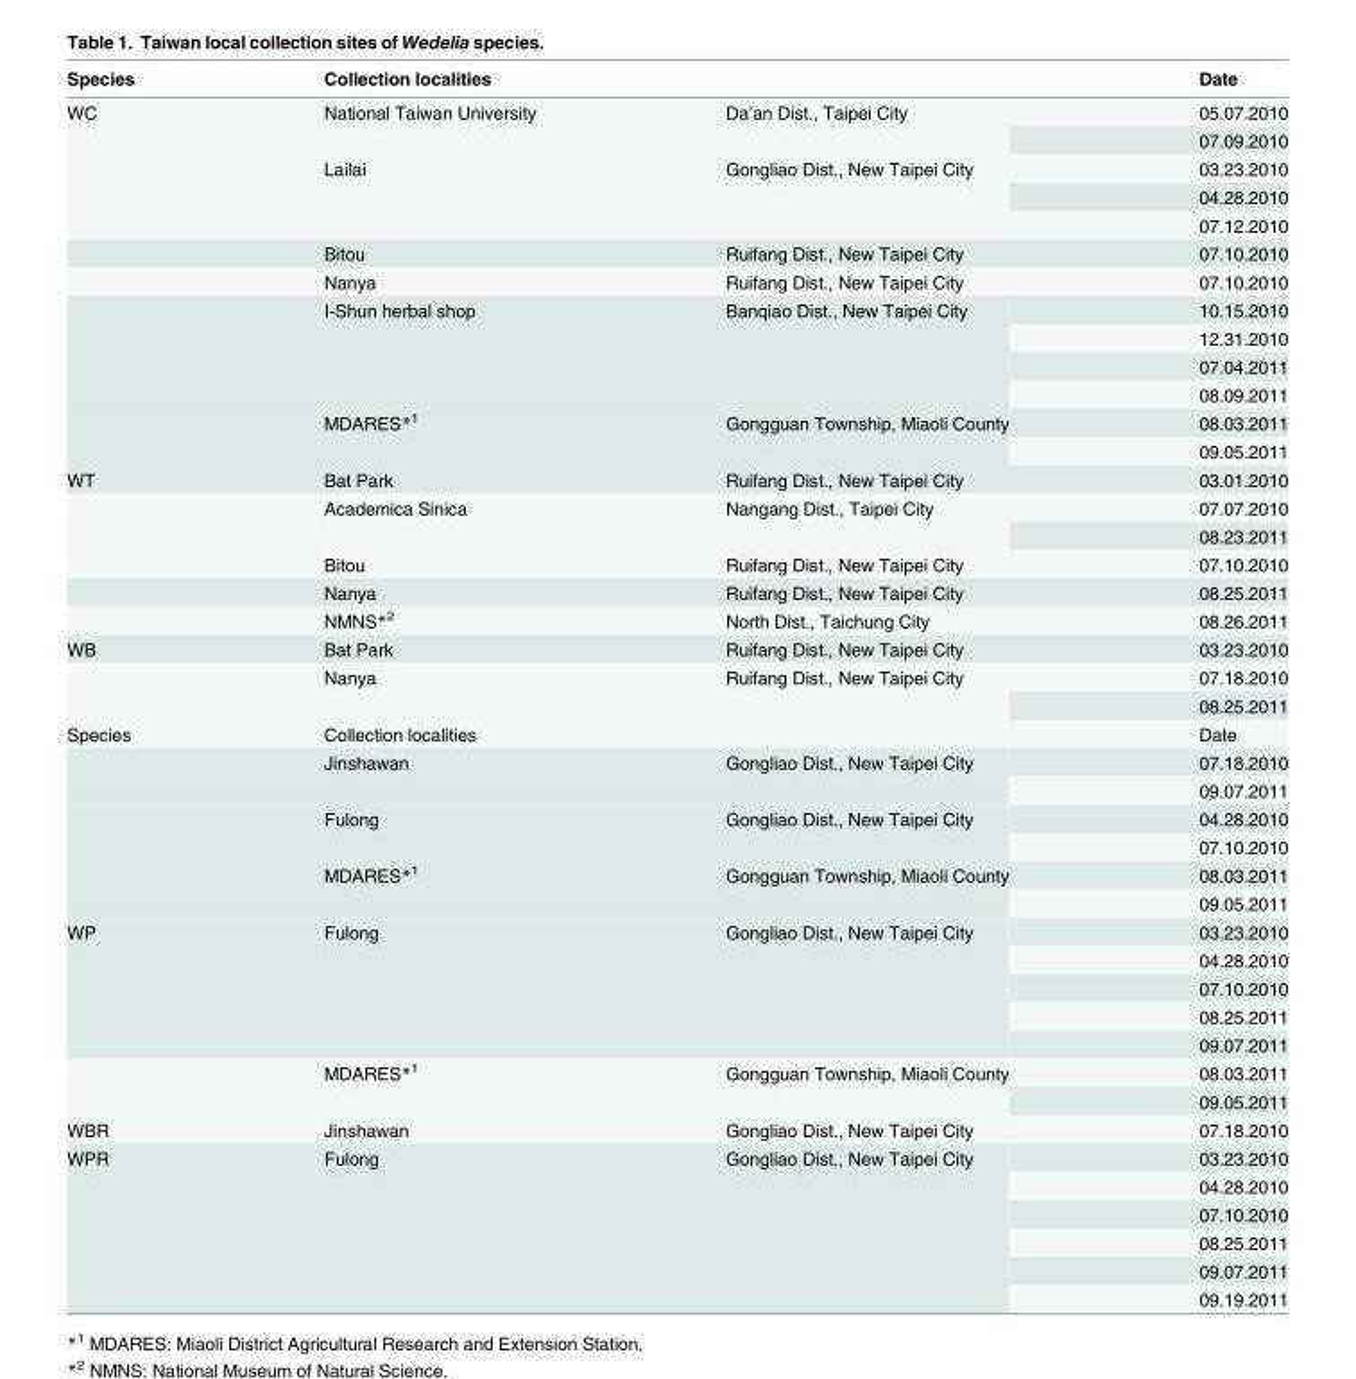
<table><thead><tr><td>Species</td><td>Collection localities</td><td></td><td>Date</td></tr></thead><tbody><tr><td rowspan="13">WC</td><td rowspan="2">National Taiwan University</td><td rowspan="2">Da’an Dist., Taipei City</td><td>05.07.2010</td></tr><tr><td>07.09.2010</td></tr><tr><td rowspan="3">Lailai</td><td rowspan="3">Gongliao Dist., New Taipei City</td><td>03.23.2010</td></tr><tr><td>04.28.2010</td></tr><tr><td>07.12.2010</td></tr><tr><td>Bitou</td><td>Ruifang Dist., New Taipei City</td><td>07.10.2010</td></tr><tr><td>Nanya</td><td>Ruifang Dist., New Taipei City</td><td>07.10.2010</td></tr><tr><td rowspan="4">I-Shun herbal shop</td><td rowspan="4">Banqiao Dist., New Taipei City</td><td>10.15.2010</td></tr><tr><td>12.31.2010</td></tr><tr><td>07.04.2011</td></tr><tr><td>08.09.2011</td></tr><tr><td rowspan="2">MDARES*<sup>1</sup></td><td rowspan="2">Gongguan Township, Miaoli County</td><td>08.03.2011</td></tr><tr><td>09.05.2011</td></tr><tr><td rowspan="6">WT</td><td>Bat Park</td><td>Ruifang Dist., New Taipei City</td><td>03.01.2010</td></tr><tr><td rowspan="2">Academica Sinica</td><td rowspan="2">Nangang Dist., Taipei City</td><td>07.07.2010</td></tr><tr><td>08.23.2011</td></tr><tr><td>Bitou</td><td>Ruifang Dist., New Taipei City</td><td>07.10.2010</td></tr><tr><td>Nanya</td><td>Ruifang Dist., New Taipei City</td><td>08.25.2011</td></tr><tr><td>NMNS*<sup>2</sup></td><td>North Dist., Taichung City</td><td>08.26.2011</td></tr><tr><td rowspan="3">WB</td><td>Bat Park</td><td>Ruifang Dist., New Taipei City</td><td>03.23.2010</td></tr><tr><td rowspan="2">Nanya</td><td rowspan="2">Ruifang Dist., New Taipei City</td><td>07.18.2010</td></tr><tr><td>08.25.2011</td></tr><tr><td rowspan="7">Species</td><td>Collection localities</td><td></td><td>Date</td></tr><tr><td rowspan="2">Jinshawan</td><td rowspan="2">Gongliao Dist., New Taipei City</td><td>07.18.2010</td></tr><tr><td>09.07.2011</td></tr><tr><td rowspan="2">Fulong</td><td rowspan="2">Gongliao Dist., New Taipei City</td><td>04.28.2010</td></tr><tr><td>07.10.2010</td></tr><tr><td rowspan="2">MDARES*<sup>1</sup></td><td rowspan="2">Gongguan Township, Miaoli County</td><td>08.03.2011</td></tr><tr><td>09.05.2011</td></tr><tr><td rowspan="7">WP</td><td rowspan="5">Fulong</td><td rowspan="5">Gongliao Dist., New Taipei City</td><td>03.23.2010</td></tr><tr><td>04.28.2010</td></tr><tr><td>07.10.2010</td></tr><tr><td>08.25.2011</td></tr><tr><td>09.07.2011</td></tr><tr><td rowspan="2">MDARES*<sup>1</sup></td><td rowspan="2">Gongguan Township, Miaoli County</td><td>08.03.2011</td></tr><tr><td>09.05.2011</td></tr><tr><td>WBR</td><td>Jinshawan</td><td>Gongliao Dist., New Taipei City</td><td>07.18.2010</td></tr><tr><td rowspan="6">WPR</td><td rowspan="6">Fulong</td><td rowspan="6">Gongliao Dist., New Taipei City</td><td>03.23.2010</td></tr><tr><td>04.28.2010</td></tr><tr><td>07.10.2010</td></tr><tr><td>08.25.2011</td></tr><tr><td>09.07.2011</td></tr><tr><td>09.19.2011</td></tr></tbody></table>